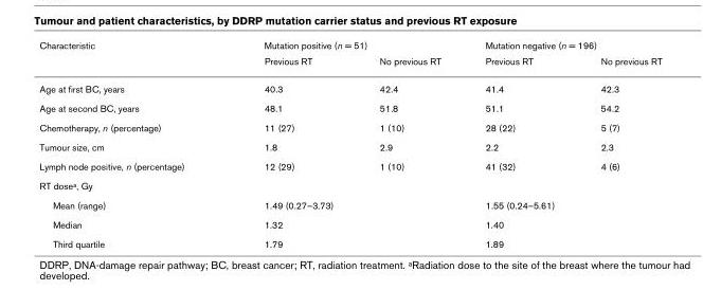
<table><thead><tr><td rowspan="2">Characteristic</td><td colspan="2">Mutation positive (n = 51)</td><td colspan="2">Mutation negative (n = 196)</td></tr><tr><td>Previous RT</td><td>No previous RT</td><td>Previous RT</td><td>No previous RT</td></tr></thead><tbody><tr><td>Age at first BC, years</td><td>40.3</td><td>42.4</td><td>41.4</td><td>42.3</td></tr><tr><td>Age at second BC, years</td><td>48.1</td><td>51.8</td><td>51.1</td><td>54.2</td></tr><tr><td>Chemotherapy, n (percentage)</td><td>11 (27)</td><td>1 (10)</td><td>28 (22)</td><td>5 (7)</td></tr><tr><td>Tumour size, cm</td><td>1.8</td><td>2.9</td><td>2.2</td><td>2.3</td></tr><tr><td>Lymph node positive, n (percentage)</td><td>12 (29)</td><td>1 (10)</td><td>41 (32)</td><td>4 (6)</td></tr><tr><td colspan="5">RT dosea, Gy</td></tr><tr><td>Mean (range)</td><td>1.49 (0.27–3.73)</td><td></td><td>1.55 (0.24–5.61)</td><td></td></tr><tr><td>Median</td><td>1.32</td><td></td><td>1.40</td><td></td></tr><tr><td>Third quartile</td><td>1.79</td><td></td><td>1.89</td><td></td></tr></tbody></table>